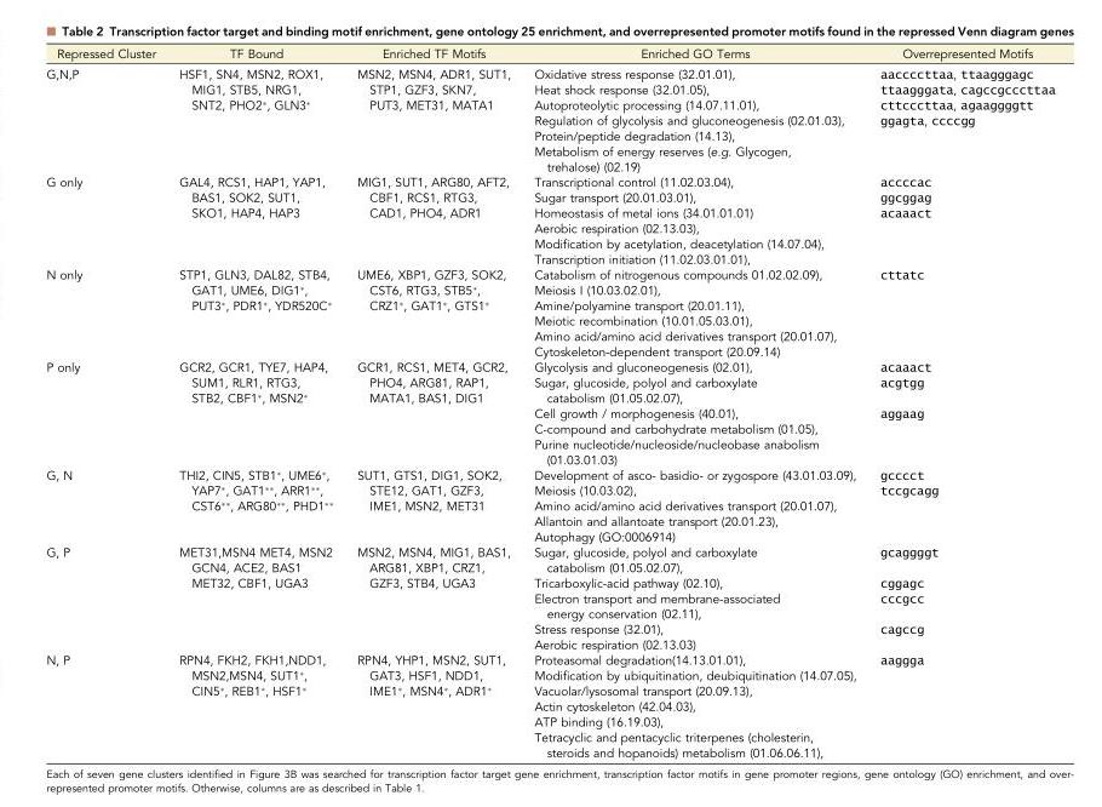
<table><thead><tr><td>Repressed Cluster</td><td>TF Bound</td><td>Enriched TF Motifs</td><td>Enriched GO Terms</td><td>Overrepresented Motifs</td></tr></thead><tbody><tr><td rowspan="6">G,N,P</td><td rowspan="6">HSF1, SN4, MSN2, ROX1, MIG1, STB5, NRG1, SNT2, PHO2*, GLN3*</td><td rowspan="6">MSN2, MSN4, ADR1, SUT1, STP1, GZF3, SKN7, PUT3, MET31, MATA1</td><td>Oxidative stress response (32.01.01),</td><td>aaccccttaa, ttaagggagc</td></tr><tr><td>Heat shock response (32.01.05),</td><td>ttaagggata, cagccgcccttaa</td></tr><tr><td>Autoproteolytic processing (14.07.11.01),</td><td>cttcccttaa, agaaggggtt</td></tr><tr><td>Regulation of glycolysis and gluconeogenesis (02.01.03),</td><td rowspan="3">ggagta, ccccgg</td></tr><tr><td>Protein/peptide degradation (14.13),</td></tr><tr><td>Metabolism of energy reserves (e.g. Glycogen, trehalose) (02.19)</td></tr><tr><td rowspan="6">G only</td><td rowspan="6">GAL4, RCS1, HAP1, YAP1, BAS1, SOK2, SUT1, SKO1, HAP4, HAP3</td><td rowspan="6">MIG1, SUT1, ARG80, AFT2, CBF1, RCS1, RTG3, CAD1, PHO4, ADR1</td><td>Transcriptional control (11.02.03.04),</td><td>accccac</td></tr><tr><td>Sugar transport (20.01.03.01),</td><td>ggcggag</td></tr><tr><td>Homeostasis of metal ions (34.01.01.01)</td><td rowspan="4">acaaact</td></tr><tr><td>Aerobic respiration (02.13.03),</td></tr><tr><td>Modification by acetylation, deacetylation (14.07.04),</td></tr><tr><td>Transcription initiation (11.02.03.01.01),</td></tr><tr><td rowspan="6">N only</td><td rowspan="6">STP1, GLN3, DAL82, STB4, GAT1, UME6, DIG1*, PUT3*, PDR1*, YDR520C*</td><td rowspan="6">UME6, XBP1, GZF3, SOK2, CST6, RTG3, STB5*, CRZ1*, GAT1*, GTS1*</td><td>Catabolism of nitrogenous compounds 01.02.02.09),</td><td rowspan="6">cttatc</td></tr><tr><td>Meiosis I (10.03.02.01),</td></tr><tr><td>Amine/polyamine transport (20.01.11),</td></tr><tr><td>Meiotic recombination (10.01.05.03.01),</td></tr><tr><td>Amino acid/amino acid derivatives transport (20.01.07),</td></tr><tr><td>Cytoskeleton-dependent transport (20.09.14)</td></tr><tr><td rowspan="5">P only</td><td rowspan="5">GCR2, GCR1, TYE7, HAP4, SUM1, RLR1, RTG3, STB2, CBF1*, MSN2*</td><td rowspan="5">GCR1, RCS1, MET4, GCR2, PHO4, ARG81, RAP1, MATA1, BAS1, DIG1</td><td>Glycolysis and gluconeogenesis (02.01),</td><td>acaaact</td></tr><tr><td>Sugar, glucoside, polyol and carboxylate catabolism (01.05.02.07),</td><td>acgtgg</td></tr><tr><td>Cell growth / morphogenesis (40.01),</td><td rowspan="3">aggaag</td></tr><tr><td>C-compound and carbohydrate metabolism (01.05),</td></tr><tr><td>Purine nucleotide/nucleoside/nucleobase anabolism (01.03.01.03)</td></tr><tr><td rowspan="5">G, N</td><td rowspan="5">THI2, CIN5, STB1*, UME6*, YAP7*, GAT1**, ARR1**, CST6**, ARG80**, PHD1**</td><td rowspan="5">SUT1, GTS1, DIG1, SOK2, STE12, GAT1, GZF3, IME1, MSN2, MET31</td><td>Development of asco- basidio- or zygospore (43.01.03.09),</td><td>gcccct</td></tr><tr><td>Meiosis (10.03.02),</td><td rowspan="4">tccgcagg</td></tr><tr><td>Amino acid/amino acid derivatives transport (20.01.07),</td></tr><tr><td>Allantoin and allantoate transport (20.01.23),</td></tr><tr><td>Autophagy (GO:0006914)</td></tr><tr><td rowspan="5">G, P</td><td rowspan="5">MET31,MSN4 MET4, MSN2 GCN4, ACE2, BAS1 MET32, CBF1, UGA3</td><td rowspan="5">MSN2, MSN4, MIG1, BAS1, ARG81, XBP1, CRZ1, GZF3, STB4, UGA3</td><td>Sugar, glucoside, polyol and carboxylate catabolism (01.05.02.07),</td><td>gcaggggt</td></tr><tr><td>Tricarboxylic-acid pathway (02.10),</td><td>cggagc</td></tr><tr><td>Electron transport and membrane-associated energy conservation (02.11),</td><td>cccgcc</td></tr><tr><td>Stress response (32.01),</td><td rowspan="2">cagccg</td></tr><tr><td>Aerobic respiration (02.13.03)</td></tr><tr><td rowspan="6">N, P</td><td rowspan="6">RPN4, FKH2, FKH1,NDD1, MSN2,MSN4, SUT1*, CIN5*, REB1*, HSF1*</td><td rowspan="6">RPN4, YHP1, MSN2, SUT1, GAT3, HSF1, NDD1, IME1*, MSN4*, ADR1*</td><td>Proteasomal degradation(14.13.01.01),</td><td rowspan="6">aaggga</td></tr><tr><td>Modification by ubiquitination, deubiquitination (14.07.05),</td></tr><tr><td>Vacuolar/lysosomal transport (20.09.13),</td></tr><tr><td>Actin cytoskeleton (42.04.03),</td></tr><tr><td>ATP binding (16.19.03),</td></tr><tr><td>Tetracyclic and pentacyclic triterpenes (cholesterin, steroids and hopanoids) metabolism (01.06.06.11),</td></tr></tbody></table>